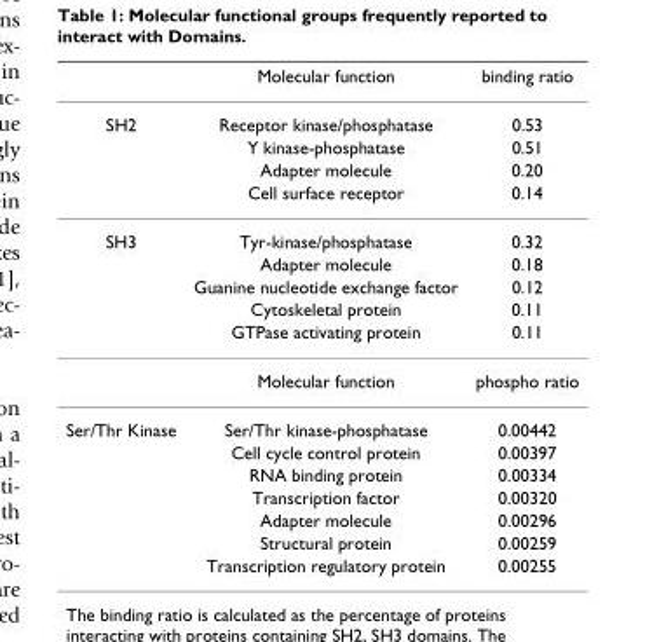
<table><thead><tr><td></td><td>Molecular function</td><td>binding ratio</td></tr></thead><tbody><tr><td rowspan="4">SH2</td><td>Receptor kinase/phosphatase</td><td>0.53</td></tr><tr><td>Y kinase-phosphatase</td><td>0.51</td></tr><tr><td>Adapter molecule</td><td>0.20</td></tr><tr><td>Cell surface receptor</td><td>0.14</td></tr><tr><td rowspan="6">SH3</td><td>Tyr-kinase/phosphatase</td><td>0.32</td></tr><tr><td>Adapter molecule</td><td>0.18</td></tr><tr><td>Guanine nucleotide exchange factor</td><td>0.12</td></tr><tr><td>Cytoskeletal protein</td><td>0.11</td></tr><tr><td>GTPase activating protein</td><td>0.11</td></tr><tr><td>Molecular function</td><td>phospho ratio</td></tr><tr><td rowspan="7">Ser/Thr Kinase</td><td>Ser/Thr kinase-phosphatase</td><td>0.00442</td></tr><tr><td>Cell cycle control protein</td><td>0.00397</td></tr><tr><td>RNA binding protein</td><td>0.00334</td></tr><tr><td>Transcription factor</td><td>0.00320</td></tr><tr><td>Adapter molecule</td><td>0.00296</td></tr><tr><td>Structural protein</td><td>0.00259</td></tr><tr><td>Transcription regulatory protein</td><td>0.00255</td></tr></tbody></table>